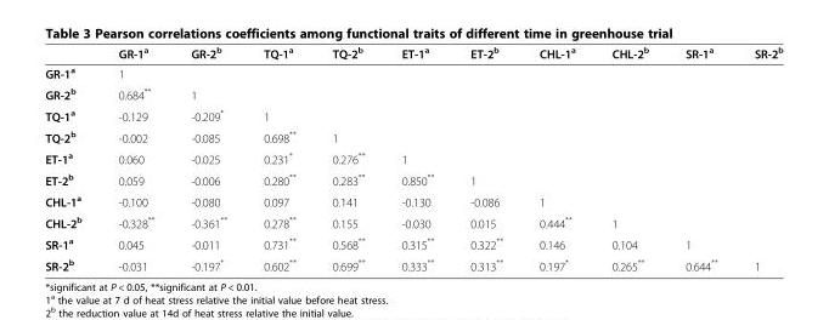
<table><thead><tr><td></td><td>GR-1<sup>a</sup></td><td>GR-2<sup>b</sup></td><td>TQ-1<sup>a</sup></td><td>TQ-2<sup>b</sup></td><td>ET-1<sup>a</sup></td><td>ET-2<sup>b</sup></td><td>CHL-1<sup>a</sup></td><td>CHL-2<sup>b</sup></td><td>SR-1<sup>a</sup></td><td>SR-2<sup>b</sup></td></tr></thead><tbody><tr><td>GR-1<sup>a</sup></td><td>1</td><td></td><td></td><td></td><td></td><td></td><td></td><td></td><td></td><td></td></tr><tr><td>GR-2<sup>b</sup></td><td>0.684**</td><td>1</td><td></td><td></td><td></td><td></td><td></td><td></td><td></td><td></td></tr><tr><td>TQ-1<sup>a</sup></td><td>-0.129</td><td>-0.209*</td><td>1</td><td></td><td></td><td></td><td></td><td></td><td></td><td></td></tr><tr><td>TQ-2<sup>b</sup></td><td>-0.002</td><td>-0.085</td><td>0.698**</td><td>1</td><td></td><td></td><td></td><td></td><td></td><td></td></tr><tr><td>ET-1<sup>a</sup></td><td>0.060</td><td>-0.025</td><td>0.231*</td><td>0.276**</td><td>1</td><td></td><td></td><td></td><td></td><td></td></tr><tr><td>ET-2<sup>b</sup></td><td>0.059</td><td>-0.006</td><td>0.280**</td><td>0.283**</td><td>0.850**</td><td>1</td><td></td><td></td><td></td><td></td></tr><tr><td>CHL-1<sup>a</sup></td><td>-0.100</td><td>-0.080</td><td>0.097</td><td>0.141</td><td>-0.130</td><td>-0.086</td><td>1</td><td></td><td></td><td></td></tr><tr><td>CHL-2<sup>b</sup></td><td>-0.328**</td><td>-0.361**</td><td>0.278**</td><td>0.155</td><td>-0.030</td><td>0.015</td><td>0.444**</td><td>1</td><td></td><td></td></tr><tr><td>SR-1<sup>a</sup></td><td>0.045</td><td>-0.011</td><td>0.731**</td><td>0.568**</td><td>0.315**</td><td>0.322**</td><td>0.146</td><td>0.104</td><td>1</td><td></td></tr><tr><td>SR-2<sup>b</sup></td><td>-0.031</td><td>-0.197*</td><td>0.602**</td><td>0.699**</td><td>0.333**</td><td>0.313**</td><td>0.197*</td><td>0.265**</td><td>0.644**</td><td>1</td></tr></tbody></table>